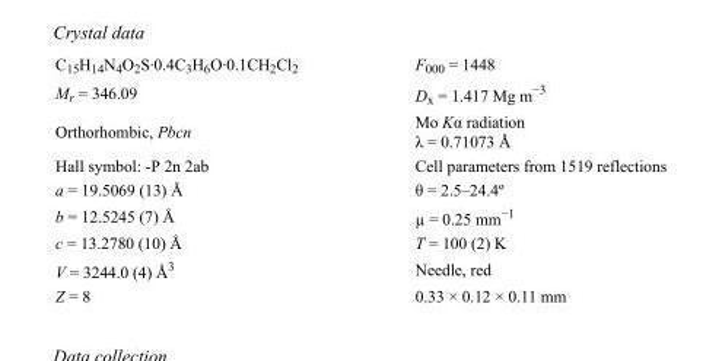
<table><tbody><tr><td>C<sub>15</sub>H<sub>14</sub>N<sub>4</sub>O<sub>2</sub>S·0.4C<sub>3</sub>H<sub>6</sub>O·0.1CH<sub>2</sub>Cl<sub>2</sub></td><td>F000 = 1448</td></tr><tr><td>M<sub>r</sub> = 346.09</td><td>D<sub>x</sub> = 1.417 Mg m<sup>−3</sup></td></tr><tr><td>Orthorhombic, Pbcn</td><td>Mo Kα radiation λ = 0.71073 Å</td></tr><tr><td>Hall symbol: -P 2n 2ab</td><td>Cell parameters from 1519 reflections</td></tr><tr><td>a = 19.5069 (13) Å</td><td>θ = 2.5–24.4º</td></tr><tr><td>b = 12.5245 (7) Å</td><td>µ = 0.25 mm<sup>−1</sup></td></tr><tr><td>c = 13.2780 (10) Å</td><td>T = 100 (2) K</td></tr><tr><td>V = 3244.0 (4) Å<sup>3</sup></td><td>Needle, red</td></tr><tr><td>Z = 8</td><td>0.33 × 0.12 × 0.11 mm</td></tr></tbody></table>